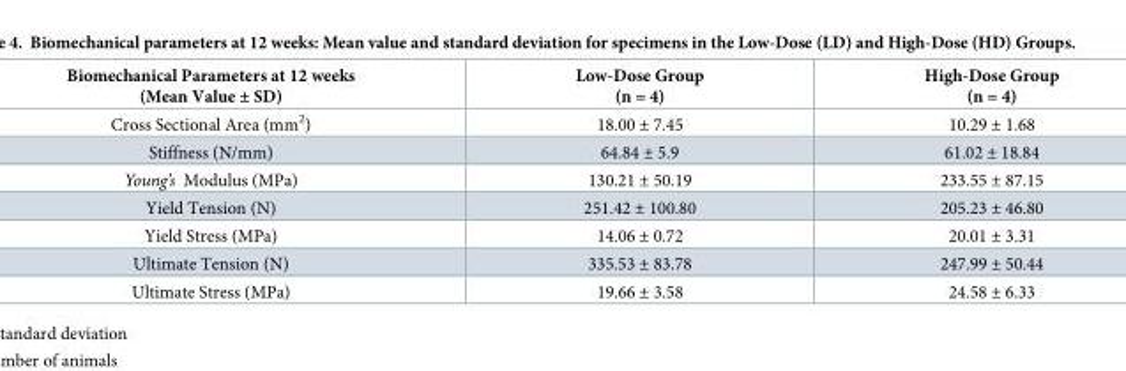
<table><thead><tr><td>Biomechanical Parameters at 12 weeks (Mean Value ± SD)</td><td>Low-Dose Group (n = 4)</td><td>High-Dose Group (n = 4)</td></tr></thead><tbody><tr><td>Cross Sectional Area (mm<sup>2</sup>)</td><td>18.00 ± 7.45</td><td>10.29 ± 1.68</td></tr><tr><td>Stiffness (N/mm)</td><td>64.84 ± 5.9</td><td>61.02 ± 18.84</td></tr><tr><td>Young’s Modulus (MPa)</td><td>130.21 ± 50.19</td><td>233.55 ± 87.15</td></tr><tr><td>Yield Tension (N)</td><td>251.42 ± 100.80</td><td>205.23 ± 46.80</td></tr><tr><td>Yield Stress (MPa)</td><td>14.06 ± 0.72</td><td>20.01 ± 3.31</td></tr><tr><td>Ultimate Tension (N)</td><td>335.53 ± 83.78</td><td>247.99 ± 50.44</td></tr><tr><td>Ultimate Stress (MPa)</td><td>19.66 ± 3.58</td><td>24.58 ± 6.33</td></tr></tbody></table>